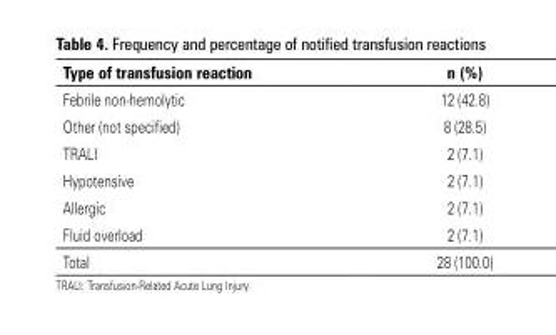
<table><thead><tr><td>Type of transfusion reaction</td><td>n (%)</td></tr></thead><tbody><tr><td>Febrile non-hemolytic</td><td>12 (42.8)</td></tr><tr><td>Other (not specified)</td><td>8 (28.5)</td></tr><tr><td>TRALI</td><td>2 (7.1)</td></tr><tr><td>Hypotensive</td><td>2 (7.1)</td></tr><tr><td>Allergic</td><td>2 (7.1)</td></tr><tr><td>Fluid overload</td><td>2 (7.1)</td></tr><tr><td>Total</td><td>28 (100.0)</td></tr></tbody></table>